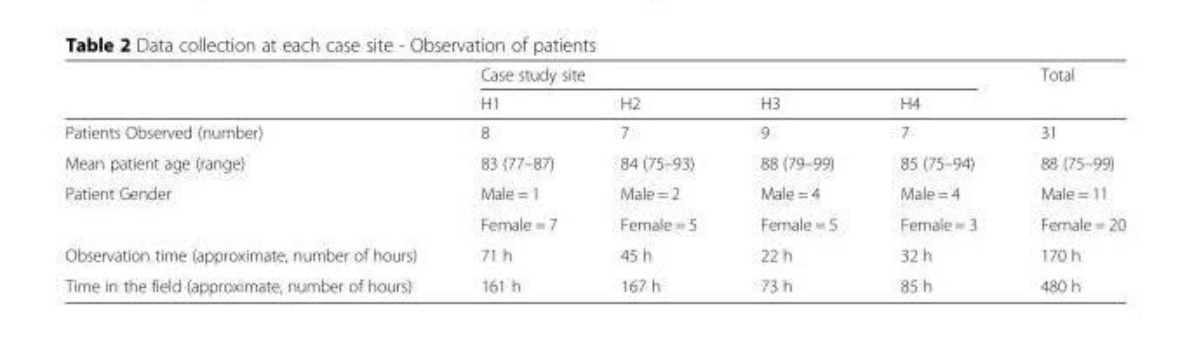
<table><thead><tr><td rowspan="2"></td><td colspan="4">Case study site</td><td rowspan="2">Total</td></tr><tr><td>H1</td><td>H2</td><td>H3</td><td>H4</td></tr></thead><tbody><tr><td>Patients Observed (number)</td><td>8</td><td>7</td><td>9</td><td>7</td><td>31</td></tr><tr><td>Mean patient age (range)</td><td>83 (77–87)</td><td>84 (75–93)</td><td>88 (79–99)</td><td>85 (75–94)</td><td>88 (75–99)</td></tr><tr><td rowspan="2">Patient Gender</td><td>Male = 1</td><td>Male = 2</td><td>Male = 4</td><td>Male = 4</td><td>Male = 11</td></tr><tr><td>Female = 7</td><td>Female = 5</td><td>Female = 5</td><td>Female = 3</td><td>Female = 20</td></tr><tr><td>Observation time (approximate, number of hours)</td><td>71 h</td><td>45 h</td><td>22 h</td><td>32 h</td><td>170 h</td></tr><tr><td>Time in the field (approximate, number of hours)</td><td>161 h</td><td>167 h</td><td>73 h</td><td>85 h</td><td>480 h</td></tr></tbody></table>